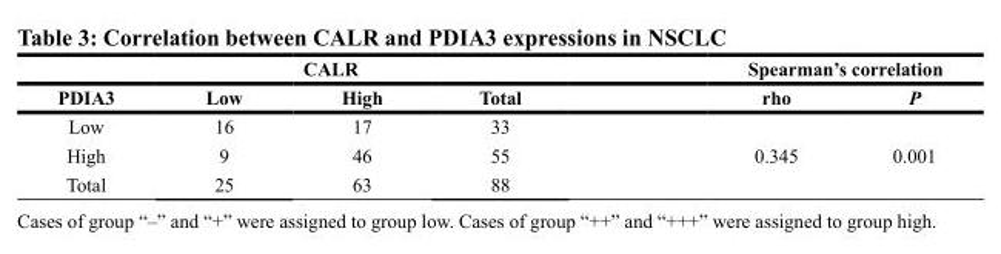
<table><thead><tr><td rowspan="2">PDIA3</td><td colspan="3">CALR</td><td colspan="2">Spearman’s correlation</td></tr><tr><td>Low</td><td>High</td><td>Total</td><td>rho</td><td>P</td></tr></thead><tbody><tr><td>Low</td><td>16</td><td>17</td><td>33</td><td></td><td></td></tr><tr><td>High</td><td>9</td><td>46</td><td>55</td><td>0.345</td><td>0.001</td></tr><tr><td>Total</td><td>25</td><td>63</td><td>88</td><td></td><td></td></tr></tbody></table>